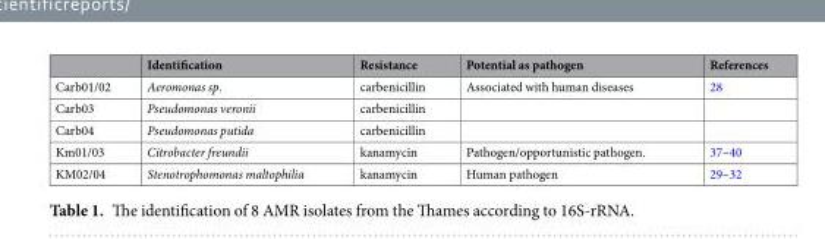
<table><thead><tr><td></td><td>Identification</td><td>Resistance</td><td>Potential as pathogen</td><td>References</td></tr></thead><tbody><tr><td>Carb01/02</td><td>Aeromonas sp.</td><td>carbenicillin</td><td>Associated with human diseases</td><td>28</td></tr><tr><td>Carb03</td><td>Pseudomonas veronii</td><td>carbenicillin</td><td></td><td></td></tr><tr><td>Carb04</td><td>Pseudomonas putida</td><td>carbenicillin</td><td></td><td></td></tr><tr><td>Km01/03</td><td>Citrobacter freundii</td><td>kanamycin</td><td>Pathogen/opportunistic pathogen.</td><td>37–40</td></tr><tr><td>KM02/04</td><td>Stenotrophomonas maltophilia</td><td>kanamycin</td><td>Human pathogen</td><td>29–32</td></tr></tbody></table>